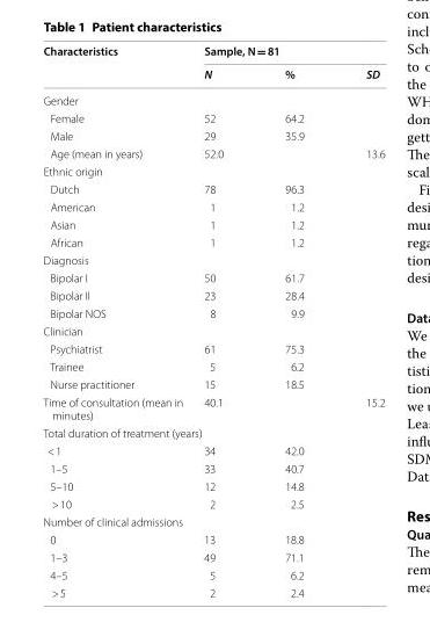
<table><thead><tr><td rowspan="2">Characteristics</td><td colspan="3">Sample, N = 81</td></tr><tr><td>N</td><td>%</td><td>SD</td></tr></thead><tbody><tr><td colspan="4">Gender</td></tr><tr><td>Female</td><td>52</td><td>64.2</td><td></td></tr><tr><td>Male</td><td>29</td><td>35.9</td><td></td></tr><tr><td>Age (mean in years)</td><td>52.0</td><td></td><td>13.6</td></tr><tr><td colspan="4">Ethnic origin</td></tr><tr><td>Dutch</td><td>78</td><td>96.3</td><td></td></tr><tr><td>American</td><td>1</td><td>1.2</td><td></td></tr><tr><td>Asian</td><td>1</td><td>1.2</td><td></td></tr><tr><td>African</td><td>1</td><td>1.2</td><td></td></tr><tr><td colspan="4">Diagnosis</td></tr><tr><td>Bipolar I</td><td>50</td><td>61.7</td><td></td></tr><tr><td>Bipolar II</td><td>23</td><td>28.4</td><td></td></tr><tr><td>Bipolar NOS</td><td>8</td><td>9.9</td><td></td></tr><tr><td colspan="4">Clinician</td></tr><tr><td>Psychiatrist</td><td>61</td><td>75.3</td><td></td></tr><tr><td>Trainee</td><td>5</td><td>6.2</td><td></td></tr><tr><td>Nurse practitioner</td><td>15</td><td>18.5</td><td></td></tr><tr><td>Time of consultation (mean in minutes)</td><td>40.1</td><td></td><td>15.2</td></tr><tr><td colspan="4">Total duration of treatment (years)</td></tr><tr><td>&lt; 1</td><td>34</td><td>42.0</td><td></td></tr><tr><td>1–5</td><td>33</td><td>40.7</td><td></td></tr><tr><td>5–10</td><td>12</td><td>14.8</td><td></td></tr><tr><td>&gt; 10</td><td>2</td><td>2.5</td><td></td></tr><tr><td colspan="4">Number of clinical admissions</td></tr><tr><td>0</td><td>13</td><td>18.8</td><td></td></tr><tr><td>1–3</td><td>49</td><td>71.1</td><td></td></tr><tr><td>4–5</td><td>5</td><td>6.2</td><td></td></tr><tr><td>&gt; 5</td><td>2</td><td>2.4</td><td></td></tr></tbody></table>